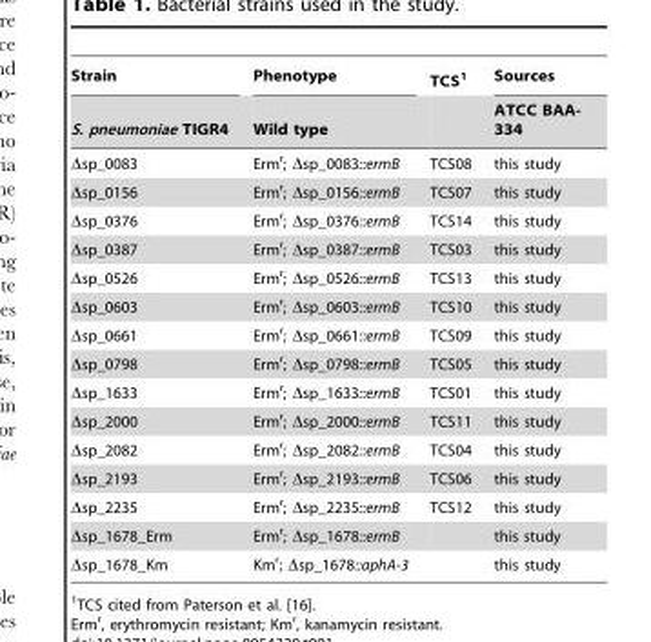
<table><thead><tr><td rowspan="2">Strain S. pneumoniae TIGR4</td><td rowspan="2">Phenotype Wild type</td><td rowspan="2">TCS<sup>1</sup></td><td rowspan="2">Sources ATCC BAA- 334</td></tr><tr></tr></thead><tbody><tr><td>Δsp_0083</td><td>Erm<sup>r</sup>; Δsp_0083::ermB</td><td>TCS08</td><td>this study</td></tr><tr><td>Δsp_0156</td><td>Erm<sup>r</sup>; Δsp_0156::ermB</td><td>TCS07</td><td>this study</td></tr><tr><td>Δsp_0376</td><td>Erm<sup>r</sup>; Δsp_0376::ermB</td><td>TCS14</td><td>this study</td></tr><tr><td>Δsp_0387</td><td>Erm<sup>r</sup>; Δsp_0387::ermB</td><td>TCS03</td><td>this study</td></tr><tr><td>Δsp_0526</td><td>Erm<sup>r</sup>; Δsp_0526::ermB</td><td>TCS13</td><td>this study</td></tr><tr><td>Δsp_0603</td><td>Erm<sup>r</sup>; Δsp_0603::ermB</td><td>TCS10</td><td>this study</td></tr><tr><td>Δsp_0661</td><td>Erm<sup>r</sup>; Δsp_0661::ermB</td><td>TCS09</td><td>this study</td></tr><tr><td>Δsp_0798</td><td>Erm<sup>r</sup>; Δsp_0798::ermB</td><td>TCS05</td><td>this study</td></tr><tr><td>Δsp_1633</td><td>Erm<sup>r</sup>; Δsp_1633::ermB</td><td>TCS01</td><td>this study</td></tr><tr><td>Δsp_2000</td><td>Erm<sup>r</sup>; Δsp_2000::ermB</td><td>TCS11</td><td>this study</td></tr><tr><td>Δsp_2082</td><td>Erm<sup>r</sup>; Δsp_2082::ermB</td><td>TCS04</td><td>this study</td></tr><tr><td>Δsp_2193</td><td>Erm<sup>r</sup>; Δsp_2193::ermB</td><td>TCS06</td><td>this study</td></tr><tr><td>Δsp_2235</td><td>Erm<sup>r</sup>; Δsp_2235::ermB</td><td>TCS12</td><td>this study</td></tr><tr><td>Δsp_1678_Erm</td><td>Erm<sup>r</sup>; Δsp_1678::ermB</td><td></td><td>this study</td></tr><tr><td>Δsp_1678_Km</td><td>Km<sup>r</sup>; Δsp_1678::aphA-3</td><td></td><td>this study</td></tr></tbody></table>